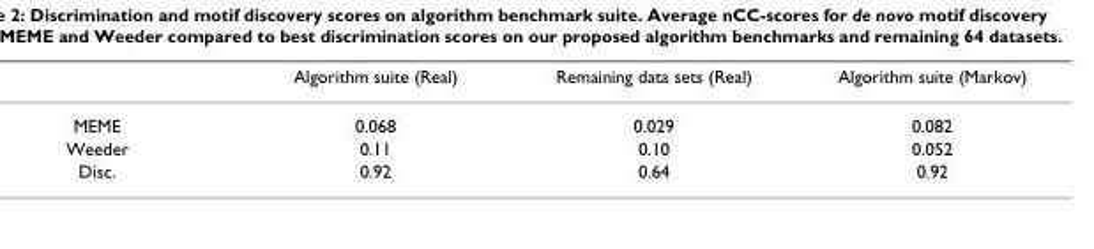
<table><thead><tr><td></td><td>Algorithm suite (Real)</td><td>Remaining data sets (Real)</td><td>Algorithm suite (Markov)</td></tr></thead><tbody><tr><td>MEME</td><td>0.068</td><td>0.029</td><td>0.082</td></tr><tr><td>Weeder</td><td>0.11</td><td>0.10</td><td>0.052</td></tr><tr><td>Disc.</td><td>0.92</td><td>0.64</td><td>0.92</td></tr></tbody></table>